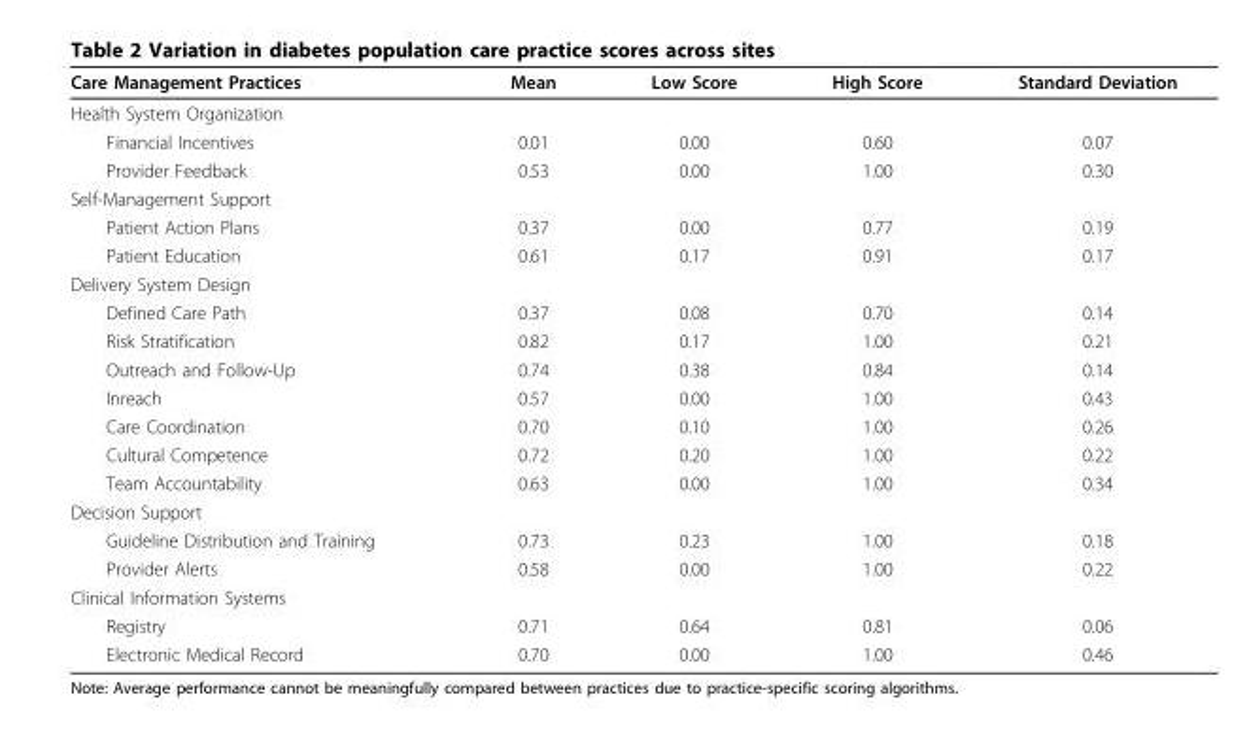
<table><thead><tr><td>Care Management Practices</td><td>Mean</td><td>Low Score</td><td>High Score</td><td>Standard Deviation</td></tr></thead><tbody><tr><td colspan="5">Health System Organization</td></tr><tr><td>Financial Incentives</td><td>0.01</td><td>0.00</td><td>0.60</td><td>0.07</td></tr><tr><td>Provider Feedback</td><td>0.53</td><td>0.00</td><td>1.00</td><td>0.30</td></tr><tr><td colspan="5">Self-Management Support</td></tr><tr><td>Patient Action Plans</td><td>0.37</td><td>0.00</td><td>0.77</td><td>0.19</td></tr><tr><td>Patient Education</td><td>0.61</td><td>0.17</td><td>0.91</td><td>0.17</td></tr><tr><td colspan="5">Delivery System Design</td></tr><tr><td>Defined Care Path</td><td>0.37</td><td>0.08</td><td>0.70</td><td>0.14</td></tr><tr><td>Risk Stratification</td><td>0.82</td><td>0.17</td><td>1.00</td><td>0.21</td></tr><tr><td>Outreach and Follow-Up</td><td>0.74</td><td>0.38</td><td>0.84</td><td>0.14</td></tr><tr><td>Inreach</td><td>0.57</td><td>0.00</td><td>1.00</td><td>0.43</td></tr><tr><td>Care Coordination</td><td>0.70</td><td>0.10</td><td>1.00</td><td>0.26</td></tr><tr><td>Cultural Competence</td><td>0.72</td><td>0.20</td><td>1.00</td><td>0.22</td></tr><tr><td>Team Accountability</td><td>0.63</td><td>0.00</td><td>1.00</td><td>0.34</td></tr><tr><td colspan="5">Decision Support</td></tr><tr><td>Guideline Distribution and Training</td><td>0.73</td><td>0.23</td><td>1.00</td><td>0.18</td></tr><tr><td>Provider Alerts</td><td>0.58</td><td>0.00</td><td>1.00</td><td>0.22</td></tr><tr><td colspan="5">Clinical Information Systems</td></tr><tr><td>Registry</td><td>0.71</td><td>0.64</td><td>0.81</td><td>0.06</td></tr><tr><td>Electronic Medical Record</td><td>0.70</td><td>0.00</td><td>1.00</td><td>0.46</td></tr></tbody></table>